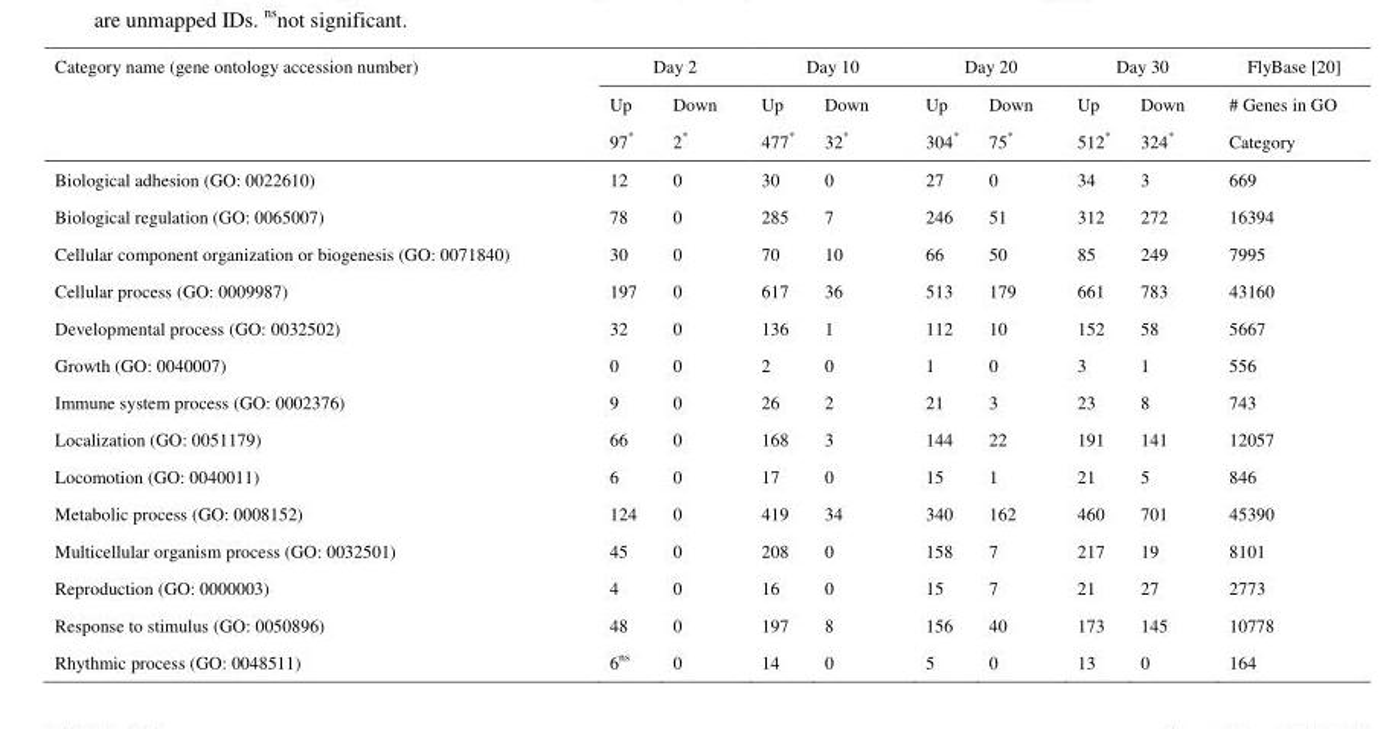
<table><thead><tr><td rowspan="2">Category name (gene ontology accession number)</td><td colspan="2">Day 2</td><td colspan="2">Day 10</td><td colspan="2">Day 20</td><td colspan="2">Day 30</td><td rowspan="2">FlyBase [20] # Genes in GO Category</td></tr><tr><td>Up 97*</td><td>Down 2*</td><td>Up 477*</td><td>Down 32*</td><td>Up 304*</td><td>Down 75*</td><td>Up 512*</td><td>Down 324*</td></tr></thead><tbody><tr><td>Biological adhesion (GO: 0022610)</td><td>12</td><td>0</td><td>30</td><td>0</td><td>27</td><td>0</td><td>34</td><td>3</td><td>669</td></tr><tr><td>Biological regulation (GO: 0065007)</td><td>78</td><td>0</td><td>285</td><td>7</td><td>246</td><td>51</td><td>312</td><td>272</td><td>16394</td></tr><tr><td>Cellular component organization or biogenesis (GO: 0071840)</td><td>30</td><td>0</td><td>70</td><td>10</td><td>66</td><td>50</td><td>85</td><td>249</td><td>7995</td></tr><tr><td>Cellular process (GO: 0009987)</td><td>197</td><td>0</td><td>617</td><td>36</td><td>513</td><td>179</td><td>661</td><td>783</td><td>43160</td></tr><tr><td>Developmental process (GO: 0032502)</td><td>32</td><td>0</td><td>136</td><td>1</td><td>112</td><td>10</td><td>152</td><td>58</td><td>5667</td></tr><tr><td>Growth (GO: 0040007)</td><td>0</td><td>0</td><td>2</td><td>0</td><td>1</td><td>0</td><td>3</td><td>1</td><td>556</td></tr><tr><td>Immune system process (GO: 0002376)</td><td>9</td><td>0</td><td>26</td><td>2</td><td>21</td><td>3</td><td>23</td><td>8</td><td>743</td></tr><tr><td>Localization (GO: 0051179)</td><td>66</td><td>0</td><td>168</td><td>3</td><td>144</td><td>22</td><td>191</td><td>141</td><td>12057</td></tr><tr><td>Locomotion (GO: 0040011)</td><td>6</td><td>0</td><td>17</td><td>0</td><td>15</td><td>1</td><td>21</td><td>5</td><td>846</td></tr><tr><td>Metabolic process (GO: 0008152)</td><td>124</td><td>0</td><td>419</td><td>34</td><td>340</td><td>162</td><td>460</td><td>701</td><td>45390</td></tr><tr><td>Multicellular organism process (GO: 0032501)</td><td>45</td><td>0</td><td>208</td><td>0</td><td>158</td><td>7</td><td>217</td><td>19</td><td>8101</td></tr><tr><td>Reproduction (GO: 0000003)</td><td>4</td><td>0</td><td>16</td><td>0</td><td>15</td><td>7</td><td>21</td><td>27</td><td>2773</td></tr><tr><td>Response to stimulus (GO: 0050896)</td><td>48</td><td>0</td><td>197</td><td>8</td><td>156</td><td>40</td><td>173</td><td>145</td><td>10778</td></tr><tr><td>Rhythmic process (GO: 0048511)</td><td>6<sup>ns</sup></td><td>0</td><td>14</td><td>0</td><td>5</td><td>0</td><td>13</td><td>0</td><td>164</td></tr></tbody></table>